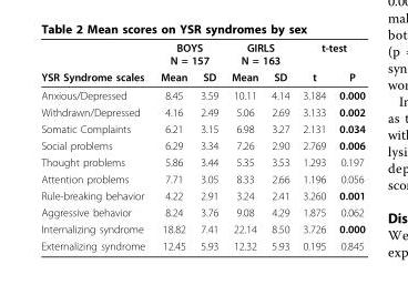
<table><thead><tr><td rowspan="2">YSR Syndrome scales</td><td colspan="2">BOYS N = 157</td><td colspan="2">GIRLS N = 163</td><td colspan="2">t-test</td></tr><tr><td>Mean</td><td>SD</td><td>Mean</td><td>SD</td><td>t</td><td>P</td></tr></thead><tbody><tr><td>Anxious/Depressed</td><td>8.45</td><td>3.59</td><td>10.11</td><td>4.14</td><td>3.184</td><td>0.000</td></tr><tr><td>Withdrawn/Depressed</td><td>4.16</td><td>2.49</td><td>5.06</td><td>2.69</td><td>3.133</td><td>0.002</td></tr><tr><td>Somatic Complaints</td><td>6.21</td><td>3.15</td><td>6.98</td><td>3.27</td><td>2.131</td><td>0.034</td></tr><tr><td>Social problems</td><td>6.29</td><td>3.34</td><td>7.26</td><td>2.90</td><td>2.769</td><td>0.006</td></tr><tr><td>Thought problems</td><td>5.86</td><td>3.44</td><td>5.35</td><td>3.53</td><td>1.293</td><td>0.197</td></tr><tr><td>Attention problems</td><td>7.71</td><td>3.05</td><td>8.33</td><td>2.66</td><td>1.196</td><td>0.056</td></tr><tr><td>Rule-breaking behavior</td><td>4.22</td><td>2.91</td><td>3.24</td><td>2.41</td><td>3.260</td><td>0.001</td></tr><tr><td>Aggressive behavior</td><td>8.24</td><td>3.76</td><td>9.08</td><td>4.29</td><td>1.875</td><td>0.062</td></tr><tr><td>Internalizing syndrome</td><td>18.82</td><td>7.41</td><td>22.14</td><td>8.50</td><td>3.726</td><td>0.000</td></tr><tr><td>Externalizing syndrome</td><td>12.45</td><td>5.93</td><td>12.32</td><td>5.93</td><td>0.195</td><td>0.845</td></tr></tbody></table>